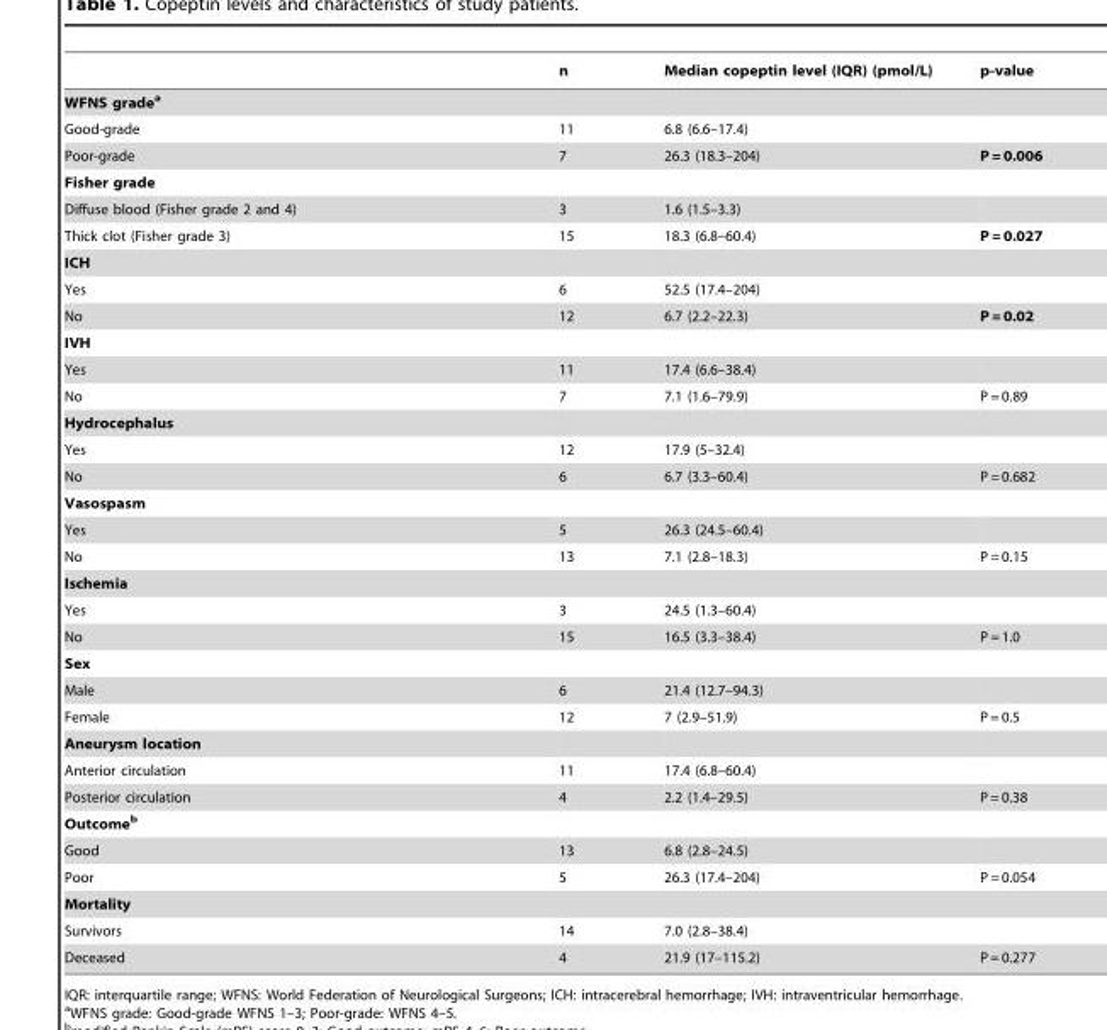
<table><thead><tr><td></td><td>n</td><td>Median copeptin level (IQR) (pmol/L)</td><td>p-value</td></tr></thead><tbody><tr><td colspan="4">WFNS gradea</td></tr><tr><td>Good-grade</td><td>11</td><td>6.8 (6.6–17.4)</td><td></td></tr><tr><td>Poor-grade</td><td>7</td><td>26.3 (18.3–204)</td><td>P = 0.006</td></tr><tr><td colspan="4">Fisher grade</td></tr><tr><td>Diffuse blood (Fisher grade 2 and 4)</td><td>3</td><td>1.6 (1.5–3.3)</td><td></td></tr><tr><td>Thick clot (Fisher grade 3)</td><td>15</td><td>18.3 (6.8–60.4)</td><td>P = 0.027</td></tr><tr><td colspan="4">ICH</td></tr><tr><td>Yes</td><td>6</td><td>52.5 (17.4–204)</td><td></td></tr><tr><td>No</td><td>12</td><td>6.7 (2.2–22.3)</td><td>P = 0.02</td></tr><tr><td colspan="4">IVH</td></tr><tr><td>Yes</td><td>11</td><td>17.4 (6.6–38.4)</td><td></td></tr><tr><td>No</td><td>7</td><td>7.1 (1.6–79.9)</td><td>P = 0.89</td></tr><tr><td colspan="4">Hydrocephalus</td></tr><tr><td>Yes</td><td>12</td><td>17.9 (5–32.4)</td><td></td></tr><tr><td>No</td><td>6</td><td>6.7 (3.3–60.4)</td><td>P = 0.682</td></tr><tr><td colspan="4">Vasospasm</td></tr><tr><td>Yes</td><td>5</td><td>26.3 (24.5–60.4)</td><td></td></tr><tr><td>No</td><td>13</td><td>7.1 (2.8–18.3)</td><td>P = 0.15</td></tr><tr><td colspan="4">Ischemia</td></tr><tr><td>Yes</td><td>3</td><td>24.5 (1.3–60.4)</td><td></td></tr><tr><td>No</td><td>15</td><td>16.5 (3.3–38.4)</td><td>P = 1.0</td></tr><tr><td colspan="4">Sex</td></tr><tr><td>Male</td><td>6</td><td>21.4 (12.7–94.3)</td><td></td></tr><tr><td>Female</td><td>12</td><td>7 (2.9–51.9)</td><td>P = 0.5</td></tr><tr><td colspan="4">Aneurysm location</td></tr><tr><td>Anterior circulation</td><td>11</td><td>17.4 (6.8–60.4)</td><td></td></tr><tr><td>Posterior circulation</td><td>4</td><td>2.2 (1.4–29.5)</td><td>P = 0.38</td></tr><tr><td colspan="4">Outcomeb</td></tr><tr><td>Good</td><td>13</td><td>6.8 (2.8–24.5)</td><td></td></tr><tr><td>Poor</td><td>5</td><td>26.3 (17.4–204)</td><td>P = 0.054</td></tr><tr><td colspan="4">Mortality</td></tr><tr><td>Survivors</td><td>14</td><td>7.0 (2.8–38.4)</td><td></td></tr><tr><td>Deceased</td><td>4</td><td>21.9 (17–115.2)</td><td>P = 0.277</td></tr></tbody></table>